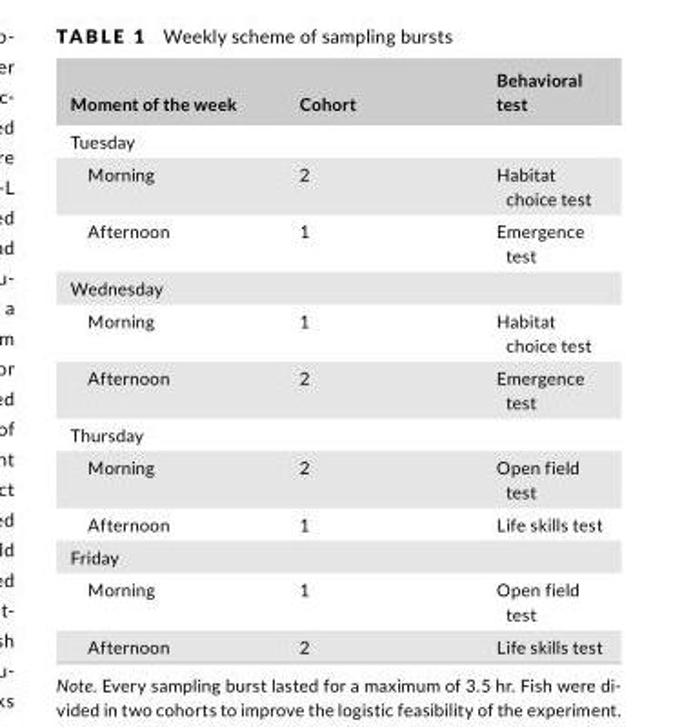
<table><thead><tr><td>Moment of the week</td><td>Cohort</td><td>Behavioral test</td></tr></thead><tbody><tr><td colspan="3">Tuesday</td></tr><tr><td>Morning</td><td>2</td><td>Habitat choice test</td></tr><tr><td>Afternoon</td><td>1</td><td>Emergence test</td></tr><tr><td colspan="3">Wednesday</td></tr><tr><td>Morning</td><td>1</td><td>Habitat choice test</td></tr><tr><td>Afternoon</td><td>2</td><td>Emergence test</td></tr><tr><td colspan="3">Thursday</td></tr><tr><td>Morning</td><td>2</td><td>Open field test</td></tr><tr><td>Afternoon</td><td>1</td><td>Life skills test</td></tr><tr><td colspan="3">Friday</td></tr><tr><td>Morning</td><td>1</td><td>Open field test</td></tr><tr><td>Afternoon</td><td>2</td><td>Life skills test</td></tr></tbody></table>